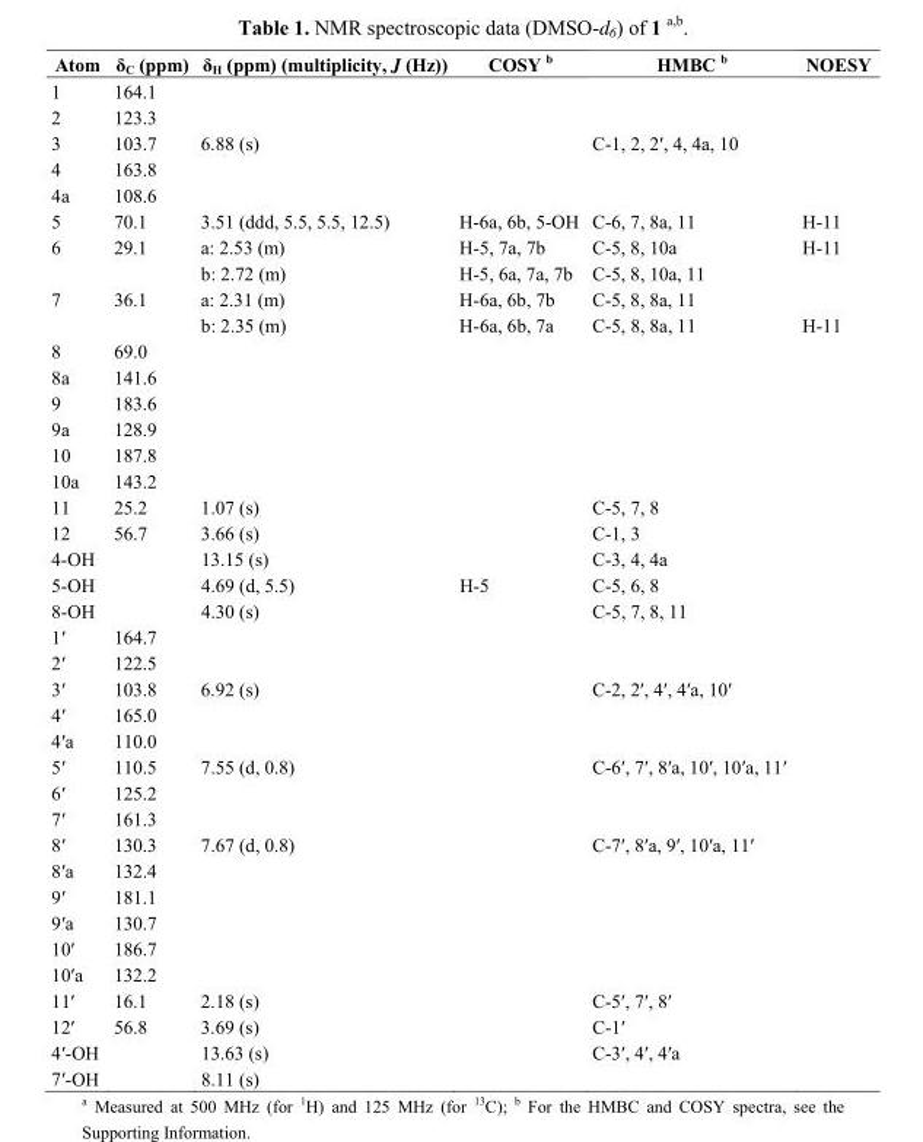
<table><thead><tr><td>Atom</td><td>δ<sub>C</sub> (ppm)</td><td>δ<sub>H</sub> (ppm) (multiplicity, J (Hz))</td><td>COSY <sup>b</sup></td><td>HMBC <sup>b</sup></td><td>NOESY</td></tr></thead><tbody><tr><td>1</td><td>164.1</td><td></td><td></td><td></td><td></td></tr><tr><td>2</td><td>123.3</td><td></td><td></td><td></td><td></td></tr><tr><td>3</td><td>103.7</td><td>6.88 (s)</td><td></td><td>C-1, 2, 2′, 4, 4a, 10</td><td></td></tr><tr><td>4</td><td>163.8</td><td></td><td></td><td></td><td></td></tr><tr><td>4a</td><td>108.6</td><td></td><td></td><td></td><td></td></tr><tr><td>5</td><td>70.1</td><td>3.51 (ddd, 5.5, 5.5, 12.5)</td><td>H-6a, 6b, 5-OH</td><td>C-6, 7, 8a, 11</td><td>H-11</td></tr><tr><td rowspan="2">6</td><td>29.1</td><td>a: 2.53 (m)</td><td>H-5, 7a, 7b</td><td>C-5, 8, 10a</td><td>H-11</td></tr><tr><td></td><td>b: 2.72 (m)</td><td>H-5, 6a, 7a, 7b</td><td>C-5, 8, 10a, 11</td><td></td></tr><tr><td rowspan="2">7</td><td>36.1</td><td>a: 2.31 (m)</td><td>H-6a, 6b, 7b</td><td>C-5, 8, 8a, 11</td><td></td></tr><tr><td></td><td>b: 2.35 (m)</td><td>H-6a, 6b, 7a</td><td>C-5, 8, 8a, 11</td><td>H-11</td></tr><tr><td>8</td><td>69.0</td><td></td><td></td><td></td><td></td></tr><tr><td>8a</td><td>141.6</td><td></td><td></td><td></td><td></td></tr><tr><td>9</td><td>183.6</td><td></td><td></td><td></td><td></td></tr><tr><td>9a</td><td>128.9</td><td></td><td></td><td></td><td></td></tr><tr><td>10</td><td>187.8</td><td></td><td></td><td></td><td></td></tr><tr><td>10a</td><td>143.2</td><td></td><td></td><td></td><td></td></tr><tr><td>11</td><td>25.2</td><td>1.07 (s)</td><td></td><td>C-5, 7, 8</td><td></td></tr><tr><td>12</td><td>56.7</td><td>3.66 (s)</td><td></td><td>C-1, 3</td><td></td></tr><tr><td>4-OH</td><td></td><td>13.15 (s)</td><td></td><td>C-3, 4, 4a</td><td></td></tr><tr><td>5-OH</td><td></td><td>4.69 (d, 5.5)</td><td>H-5</td><td>C-5, 6, 8</td><td></td></tr><tr><td>8-OH</td><td></td><td>4.30 (s)</td><td></td><td>C-5, 7, 8, 11</td><td></td></tr><tr><td>1′</td><td>164.7</td><td></td><td></td><td></td><td></td></tr><tr><td>2′</td><td>122.5</td><td></td><td></td><td></td><td></td></tr><tr><td>3′</td><td>103.8</td><td>6.92 (s)</td><td></td><td>C-2, 2′, 4′, 4′a, 10′</td><td></td></tr><tr><td>4′</td><td>165.0</td><td></td><td></td><td></td><td></td></tr><tr><td>4′a</td><td>110.0</td><td></td><td></td><td></td><td></td></tr><tr><td>5′</td><td>110.5</td><td>7.55 (d, 0.8)</td><td></td><td>C-6′, 7′, 8′a, 10′, 10′a, 11′</td><td></td></tr><tr><td>6′</td><td>125.2</td><td></td><td></td><td></td><td></td></tr><tr><td>7′</td><td>161.3</td><td></td><td></td><td></td><td></td></tr><tr><td>8′</td><td>130.3</td><td>7.67 (d, 0.8)</td><td></td><td>C-7′, 8′a, 9′, 10′a, 11′</td><td></td></tr><tr><td>8′a</td><td>132.4</td><td></td><td></td><td></td><td></td></tr><tr><td>9′</td><td>181.1</td><td></td><td></td><td></td><td></td></tr><tr><td>9′a</td><td>130.7</td><td></td><td></td><td></td><td></td></tr><tr><td>10′</td><td>186.7</td><td></td><td></td><td></td><td></td></tr><tr><td>10′a</td><td>132.2</td><td></td><td></td><td></td><td></td></tr><tr><td>11′</td><td>16.1</td><td>2.18 (s)</td><td></td><td>C-5′, 7′, 8′</td><td></td></tr><tr><td>12′</td><td>56.8</td><td>3.69 (s)</td><td></td><td>C-1′</td><td></td></tr><tr><td>4′-OH</td><td></td><td>13.63 (s)</td><td></td><td>C-3′, 4′, 4′a</td><td></td></tr><tr><td>7′-OH</td><td></td><td>8.11 (s)</td><td></td><td></td><td></td></tr></tbody></table>